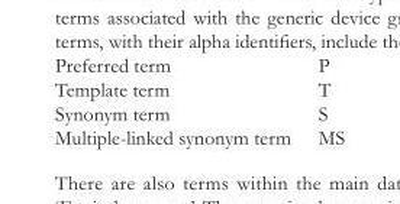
<table><tbody><tr><td>Preferred term</td><td>P</td></tr><tr><td>Template term</td><td>T</td></tr><tr><td>Synonym term</td><td>S</td></tr><tr><td>Multiple-linked synonym term</td><td>MS</td></tr></tbody></table>